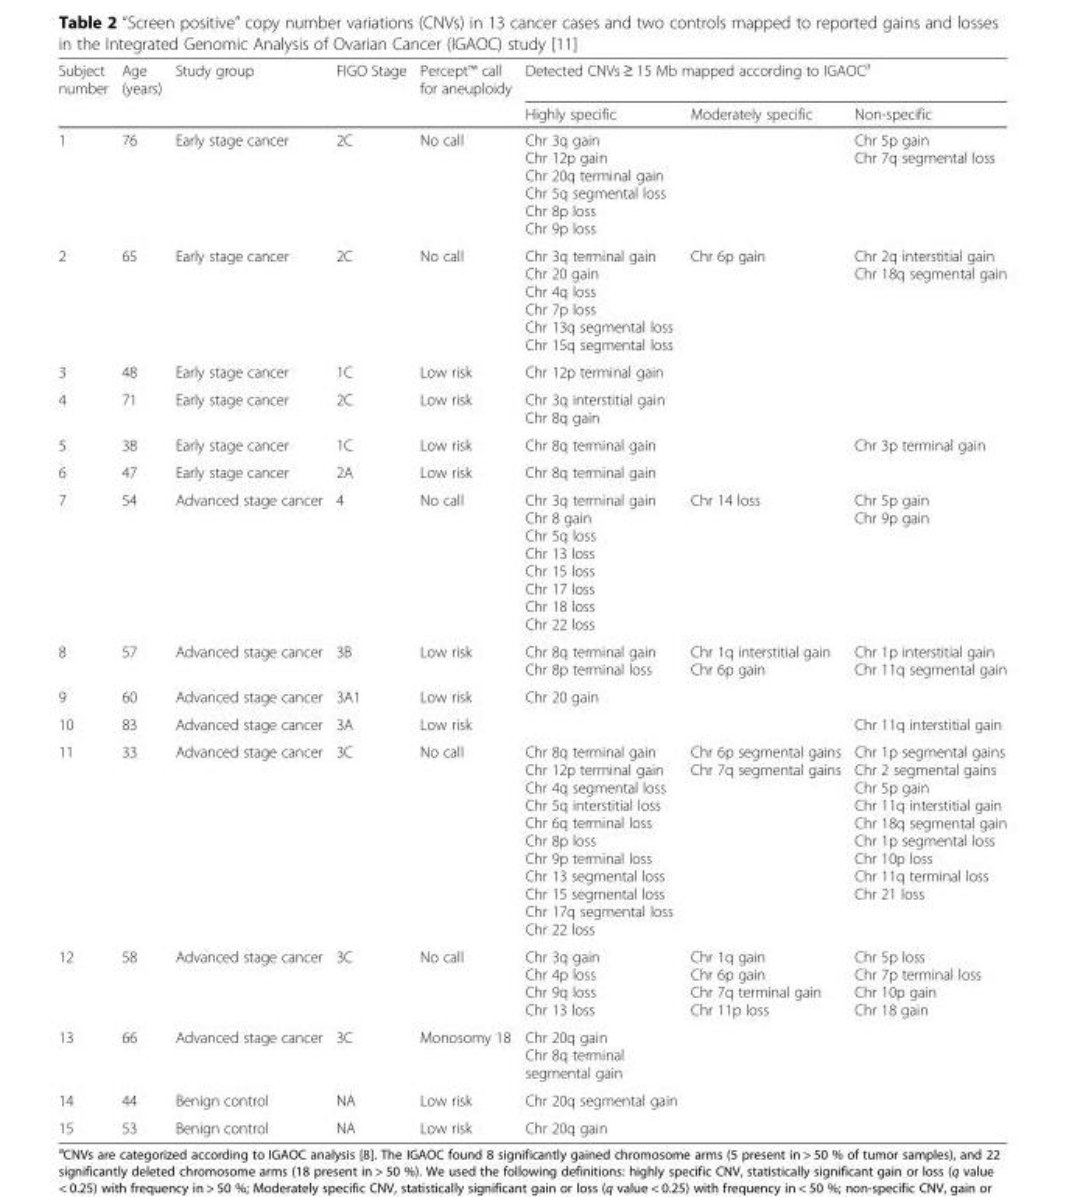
<table><thead><tr><td rowspan="2">Subject number</td><td rowspan="2">Age (years)</td><td rowspan="2">Study group</td><td rowspan="2">FIGO Stage</td><td rowspan="2">Percept™ call for aneuploidy</td><td colspan="3">Detected CNVs ≥ 15 Mb mapped according to IGAOC<sup>a</sup></td></tr><tr><td>Highly specific</td><td>Moderately specific</td><td>Non-specific</td></tr></thead><tbody><tr><td>1</td><td>76</td><td>Early stage cancer</td><td>2C</td><td>No call</td><td>Chr 3q gain Chr 12p gain Chr 20q terminal gain Chr 5q segmental loss Chr 8p loss Chr 9p loss</td><td></td><td>Chr 5p gain Chr 7q segmental loss</td></tr><tr><td>2</td><td>65</td><td>Early stage cancer</td><td>2C</td><td>No call</td><td>Chr 3q terminal gain Chr 20 gain Chr 4q loss Chr 7p loss Chr 13q segmental loss Chr 15q segmental loss</td><td>Chr 6p gain</td><td>Chr 2q interstitial gain Chr 18q segmental gain</td></tr><tr><td>3</td><td>48</td><td>Early stage cancer</td><td>1C</td><td>Low risk</td><td>Chr 12p terminal gain</td><td></td><td></td></tr><tr><td>4</td><td>71</td><td>Early stage cancer</td><td>2C</td><td>Low risk</td><td>Chr 3q interstitial gain Chr 8q gain</td><td></td><td></td></tr><tr><td>5</td><td>38</td><td>Early stage cancer</td><td>1C</td><td>Low risk</td><td>Chr 8q terminal gain</td><td></td><td>Chr 3p terminal gain</td></tr><tr><td>6</td><td>47</td><td>Early stage cancer</td><td>2A</td><td>Low risk</td><td>Chr 8q terminal gain</td><td></td><td></td></tr><tr><td>7</td><td>54</td><td>Advanced stage cancer</td><td>4</td><td>No call</td><td>Chr 3q terminal gain Chr 8 gain Chr 5q loss Chr 13 loss Chr 15 loss Chr 17 loss Chr 18 loss Chr 22 loss</td><td>Chr 14 loss</td><td>Chr 5p gain Chr 9p gain</td></tr><tr><td>8</td><td>57</td><td>Advanced stage cancer</td><td>3B</td><td>Low risk</td><td>Chr 8q terminal gain Chr 8p terminal loss</td><td>Chr 1q interstitial gain Chr 6p gain</td><td>Chr 1p interstitial gain Chr 11q segmental gain</td></tr><tr><td>9</td><td>60</td><td>Advanced stage cancer</td><td>3A1</td><td>Low risk</td><td>Chr 20 gain</td><td></td><td></td></tr><tr><td>10</td><td>83</td><td>Advanced stage cancer</td><td>3A</td><td>Low risk</td><td></td><td></td><td>Chr 11q interstitial gain</td></tr><tr><td>11</td><td>33</td><td>Advanced stage cancer</td><td>3C</td><td>No call</td><td>Chr 8q terminal gain Chr 12p terminal gain Chr 4q segmental loss Chr 5q interstitial loss Chr 6q terminal loss Chr 8p loss Chr 9p terminal loss Chr 13 segmental loss Chr 15 segmental loss Chr 17q segmental loss Chr 22 loss</td><td>Chr 6p segmental gains Chr 7q segmental gains</td><td>Chr 1p segmental gains Chr 2 segmental gains Chr 5p gain Chr 11q interstitial gain Chr 18q segmental gain Chr 1p segmental loss Chr 10p loss Chr 11q terminal loss Chr 21 loss</td></tr><tr><td>12</td><td>58</td><td>Advanced stage cancer</td><td>3C</td><td>No call</td><td>Chr 3q gain Chr 4p loss Chr 9q loss Chr 13 loss</td><td>Chr 1q gain Chr 6p gain Chr 7q terminal gain Chr 11p loss</td><td>Chr 5p loss Chr 7p terminal loss Chr 10p gain Chr 18 gain</td></tr><tr><td>13</td><td>66</td><td>Advanced stage cancer</td><td>3C</td><td>Monosomy 18</td><td>Chr 20q gain Chr 8q terminal segmental gain</td><td></td><td></td></tr><tr><td>14</td><td>44</td><td>Benign control</td><td>NA</td><td>Low risk</td><td>Chr 20q segmental gain</td><td></td><td></td></tr><tr><td>15</td><td>53</td><td>Benign control</td><td>NA</td><td>Low risk</td><td>Chr 20q gain</td><td></td><td></td></tr></tbody></table>